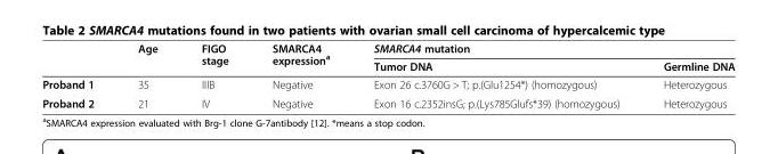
<table><thead><tr><td rowspan="2"></td><td rowspan="2">Age</td><td rowspan="2">FIGO stage</td><td rowspan="2">SMARCA4 expression<sup>a</sup></td><td colspan="2">SMARCA4 mutation</td></tr><tr><td>Tumor DNA</td><td>Germline DNA</td></tr></thead><tbody><tr><td>Proband 1</td><td>35</td><td>IIIB</td><td>Negative</td><td>Exon 26 c.3760G &gt; T; p.(Glu1254*) (homozygous)</td><td>Heterozygous</td></tr><tr><td>Proband 2</td><td>21</td><td>IV</td><td>Negative</td><td>Exon 16 c.2352insG; p.(Lys785Glufs*39) (homozygous)</td><td>Heterozygous</td></tr></tbody></table>